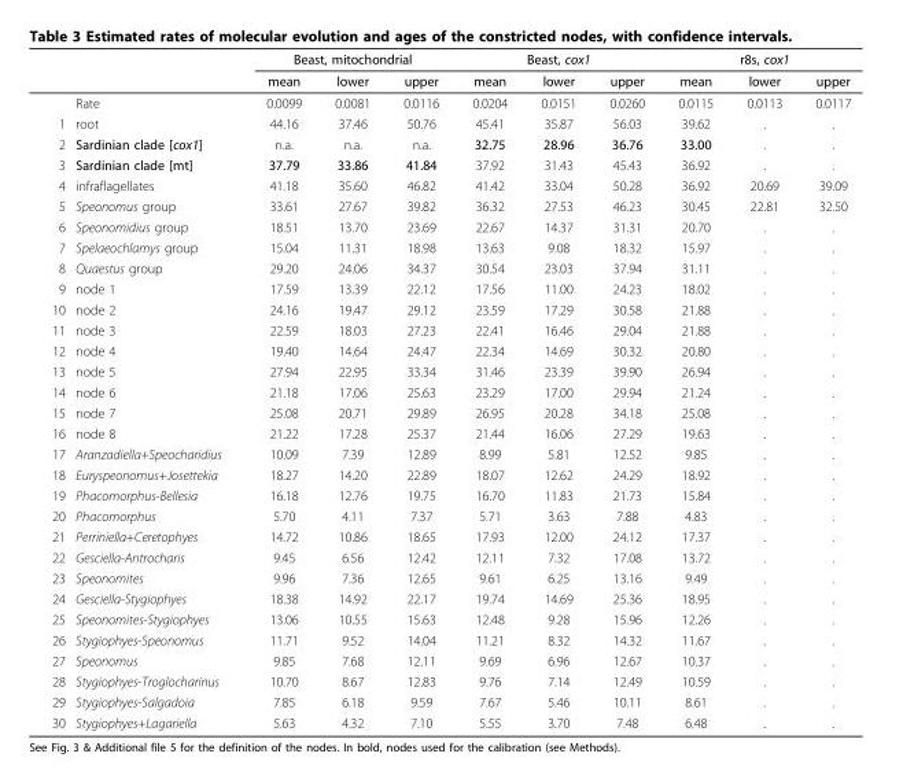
<table><thead><tr><td rowspan="2"></td><td rowspan="2"></td><td colspan="3">Beast, mitochondrial</td><td colspan="3">Beast, cox1</td><td colspan="3">r8s, cox1</td></tr><tr><td>mean</td><td>lower</td><td>upper</td><td>mean</td><td>lower</td><td>upper</td><td>mean</td><td>lower</td><td>upper</td></tr></thead><tbody><tr><td></td><td>Rate</td><td>0.0099</td><td>0.0081</td><td>0.0116</td><td>0.0204</td><td>0.0151</td><td>0.0260</td><td>0.0115</td><td>0.0113</td><td>0.0117</td></tr><tr><td>1</td><td>root</td><td>44.16</td><td>37.46</td><td>50.76</td><td>45.41</td><td>35.87</td><td>56.03</td><td>39.62</td><td>.</td><td>.</td></tr><tr><td>2</td><td>Sardinian clade [cox1]</td><td>n.a.</td><td>n.a.</td><td>n.a.</td><td>32.75</td><td>28.96</td><td>36.76</td><td>33.00</td><td>.</td><td>.</td></tr><tr><td>3</td><td>Sardinian clade [mt]</td><td>37.79</td><td>33.86</td><td>41.84</td><td>37.92</td><td>31.43</td><td>45.43</td><td>36.92</td><td>.</td><td>.</td></tr><tr><td>4</td><td>infraflagellates</td><td>41.18</td><td>35.60</td><td>46.82</td><td>41.42</td><td>33.04</td><td>50.28</td><td>36.92</td><td>20.69</td><td>39.09</td></tr><tr><td>5</td><td>Speonomus group</td><td>33.61</td><td>27.67</td><td>39.82</td><td>36.32</td><td>27.53</td><td>46.23</td><td>30.45</td><td>22.81</td><td>32.50</td></tr><tr><td>6</td><td>Speonomidius group</td><td>18.51</td><td>13.70</td><td>23.69</td><td>22.67</td><td>14.37</td><td>31.31</td><td>20.70</td><td>.</td><td>.</td></tr><tr><td>7</td><td>Spelaeochlamys group</td><td>15.04</td><td>11.31</td><td>18.98</td><td>13.63</td><td>9.08</td><td>18.32</td><td>15.97</td><td>.</td><td>.</td></tr><tr><td>8</td><td>Quaestus group</td><td>29.20</td><td>24.06</td><td>34.37</td><td>30.54</td><td>23.03</td><td>37.94</td><td>31.11</td><td>.</td><td>.</td></tr><tr><td>9</td><td>node 1</td><td>17.59</td><td>13.39</td><td>22.12</td><td>17.56</td><td>11.00</td><td>24.23</td><td>18.02</td><td>.</td><td>.</td></tr><tr><td>10</td><td>node 2</td><td>24.16</td><td>19.47</td><td>29.12</td><td>23.59</td><td>17.29</td><td>30.58</td><td>21.88</td><td>.</td><td>.</td></tr><tr><td>11</td><td>node 3</td><td>22.59</td><td>18.03</td><td>27.23</td><td>22.41</td><td>16.46</td><td>29.04</td><td>21.88</td><td>.</td><td>.</td></tr><tr><td>12</td><td>node 4</td><td>19.40</td><td>14.64</td><td>24.47</td><td>22.34</td><td>14.69</td><td>30.32</td><td>20.80</td><td>.</td><td>.</td></tr><tr><td>13</td><td>node 5</td><td>27.94</td><td>22.95</td><td>33.34</td><td>31.46</td><td>23.39</td><td>39.90</td><td>26.94</td><td>.</td><td>.</td></tr><tr><td>14</td><td>node 6</td><td>21.18</td><td>17.06</td><td>25.63</td><td>23.29</td><td>17.00</td><td>29.94</td><td>21.24</td><td>.</td><td>.</td></tr><tr><td>15</td><td>node 7</td><td>25.08</td><td>20.71</td><td>29.89</td><td>26.95</td><td>20.28</td><td>34.18</td><td>25.08</td><td>.</td><td>.</td></tr><tr><td>16</td><td>node 8</td><td>21.22</td><td>17.28</td><td>25.37</td><td>21.44</td><td>16.06</td><td>27.29</td><td>19.63</td><td>.</td><td>.</td></tr><tr><td>17</td><td>Aranzadiella+Speocharidius</td><td>10.09</td><td>7.39</td><td>12.89</td><td>8.99</td><td>5.81</td><td>12.52</td><td>9.85</td><td>.</td><td>.</td></tr><tr><td>18</td><td>Euryspeonomus+Josettekia</td><td>18.27</td><td>14.20</td><td>22.89</td><td>18.07</td><td>12.62</td><td>24.29</td><td>18.92</td><td>.</td><td>.</td></tr><tr><td>19</td><td>Phacomorphus-Bellesia</td><td>16.18</td><td>12.76</td><td>19.75</td><td>16.70</td><td>11.83</td><td>21.73</td><td>15.84</td><td>.</td><td>.</td></tr><tr><td>20</td><td>Phacomorphus</td><td>5.70</td><td>4.11</td><td>7.37</td><td>5.71</td><td>3.63</td><td>7.88</td><td>4.83</td><td>.</td><td>.</td></tr><tr><td>21</td><td>Perriniella+Ceretophyes</td><td>14.72</td><td>10.86</td><td>18.65</td><td>17.93</td><td>12.00</td><td>24.12</td><td>17.37</td><td>.</td><td>.</td></tr><tr><td>22</td><td>Gesciella-Antrocharis</td><td>9.45</td><td>6.56</td><td>12.42</td><td>12.11</td><td>7.32</td><td>17.08</td><td>13.72</td><td>.</td><td>.</td></tr><tr><td>23</td><td>Speonomites</td><td>9.96</td><td>7.36</td><td>12.65</td><td>9.61</td><td>6.25</td><td>13.16</td><td>9.49</td><td>.</td><td>.</td></tr><tr><td>24</td><td>Gesciella-Stygiophyes</td><td>18.38</td><td>14.92</td><td>22.17</td><td>19.74</td><td>14.69</td><td>25.36</td><td>18.95</td><td>.</td><td>.</td></tr><tr><td>25</td><td>Speonomites-Stygiophyes</td><td>13.06</td><td>10.55</td><td>15.63</td><td>12.48</td><td>9.28</td><td>15.96</td><td>12.26</td><td>.</td><td>.</td></tr><tr><td>26</td><td>Stygiophyes-Speonomus</td><td>11.71</td><td>9.52</td><td>14.04</td><td>11.21</td><td>8.32</td><td>14.32</td><td>11.67</td><td>.</td><td>.</td></tr><tr><td>27</td><td>Speonomus</td><td>9.85</td><td>7.68</td><td>12.11</td><td>9.69</td><td>6.96</td><td>12.67</td><td>10.37</td><td>.</td><td>.</td></tr><tr><td>28</td><td>Stygiophyes-Troglocharinus</td><td>10.70</td><td>8.67</td><td>12.83</td><td>9.76</td><td>7.14</td><td>12.49</td><td>10.59</td><td>.</td><td>.</td></tr><tr><td>29</td><td>Stygiophyes-Salgadoia</td><td>7.85</td><td>6.18</td><td>9.59</td><td>7.67</td><td>5.46</td><td>10.11</td><td>8.61</td><td>.</td><td>.</td></tr><tr><td>30</td><td>Stygiophyes+Lagariella</td><td>5.63</td><td>4.32</td><td>7.10</td><td>5.55</td><td>3.70</td><td>7.48</td><td>6.48</td><td>.</td><td>.</td></tr></tbody></table>